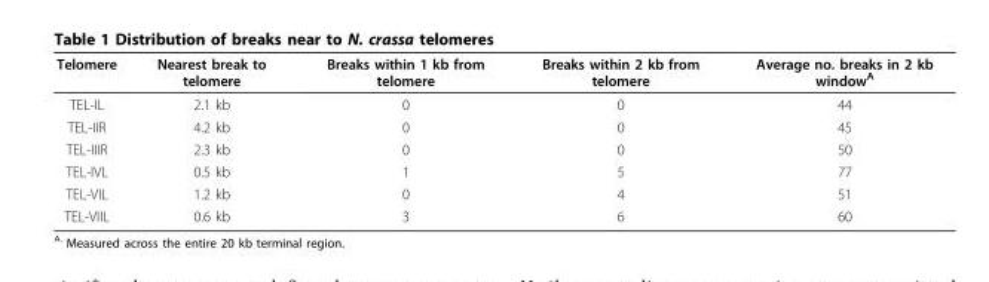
<table><thead><tr><td>Telomere</td><td>Nearest break to telomere</td><td>Breaks within 1 kb from telomere</td><td>Breaks within 2 kb from telomere</td><td>Average no. breaks in 2 kb window<sup>A</sup></td></tr></thead><tbody><tr><td>TEL-IL</td><td>2.1 kb</td><td>0</td><td>0</td><td>44</td></tr><tr><td>TEL-IIR</td><td>4.2 kb</td><td>0</td><td>0</td><td>45</td></tr><tr><td>TEL-IIIR</td><td>2.3 kb</td><td>0</td><td>0</td><td>50</td></tr><tr><td>TEL-IVL</td><td>0.5 kb</td><td>1</td><td>5</td><td>77</td></tr><tr><td>TEL-VIL</td><td>1.2 kb</td><td>0</td><td>4</td><td>51</td></tr><tr><td>TEL-VIIL</td><td>0.6 kb</td><td>3</td><td>6</td><td>60</td></tr></tbody></table>